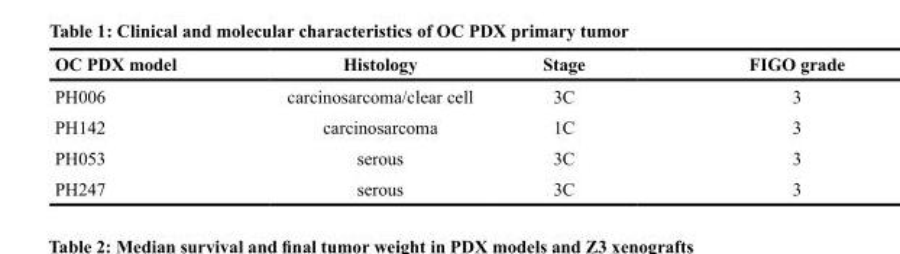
<table><thead><tr><td>OC PDX model</td><td>Histology</td><td>Stage</td><td>FIGO grade</td></tr></thead><tbody><tr><td>PH006</td><td>carcinosarcoma/clear cell</td><td>3C</td><td>3</td></tr><tr><td>PH142</td><td>carcinosarcoma</td><td>1C</td><td>3</td></tr><tr><td>PH053</td><td>serous</td><td>3C</td><td>3</td></tr><tr><td>PH247</td><td>serous</td><td>3C</td><td>3</td></tr></tbody></table>